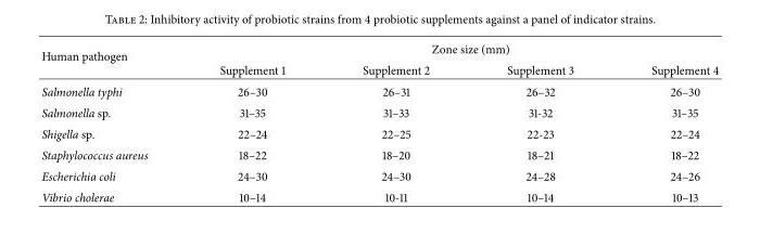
<table><thead><tr><td rowspan="2">Human pathogen</td><td colspan="4">Zone size (mm)</td></tr><tr><td>Supplement 1</td><td>Supplement 2</td><td>Supplement 3</td><td>Supplement 4</td></tr></thead><tbody><tr><td>Salmonella typhi</td><td>26–30</td><td>26–31</td><td>26–32</td><td>26–30</td></tr><tr><td>Salmonella sp.</td><td>31–35</td><td>31–33</td><td>31-32</td><td>31–35</td></tr><tr><td>Shigella sp.</td><td>22–24</td><td>22–25</td><td>22-23</td><td>22–24</td></tr><tr><td>Staphylococcus aureus</td><td>18–22</td><td>18–20</td><td>18–21</td><td>18–22</td></tr><tr><td>Escherichia coli</td><td>24–30</td><td>24–30</td><td>24–28</td><td>24–26</td></tr><tr><td>Vibrio cholerae</td><td>10–14</td><td>10-11</td><td>10–14</td><td>10–13</td></tr></tbody></table>